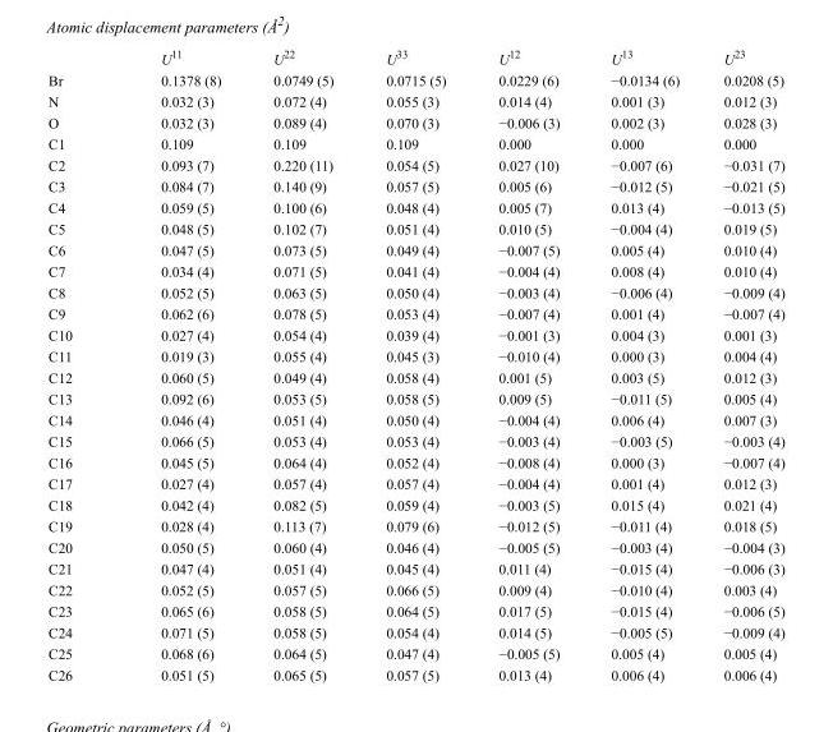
<table><thead><tr><td></td><td>U<sup>11</sup></td><td>U<sup>22</sup></td><td>U<sup>33</sup></td><td>U<sup>12</sup></td><td>U<sup>13</sup></td><td>U<sup>23</sup></td></tr></thead><tbody><tr><td>Br</td><td>0.1378 (8)</td><td>0.0749 (5)</td><td>0.0715 (5)</td><td>0.0229 (6)</td><td>−0.0134 (6)</td><td>0.0208 (5)</td></tr><tr><td>N</td><td>0.032 (3)</td><td>0.072 (4)</td><td>0.055 (3)</td><td>0.014 (4)</td><td>0.001 (3)</td><td>0.012 (3)</td></tr><tr><td>O</td><td>0.032 (3)</td><td>0.089 (4)</td><td>0.070 (3)</td><td>−0.006 (3)</td><td>0.002 (3)</td><td>0.028 (3)</td></tr><tr><td>C1</td><td>0.109</td><td>0.109</td><td>0.109</td><td>0.000</td><td>0.000</td><td>0.000</td></tr><tr><td>C2</td><td>0.093 (7)</td><td>0.220 (11)</td><td>0.054 (5)</td><td>0.027 (10)</td><td>−0.007 (6)</td><td>−0.031 (7)</td></tr><tr><td>C3</td><td>0.084 (7)</td><td>0.140 (9)</td><td>0.057 (5)</td><td>0.005 (6)</td><td>−0.012 (5)</td><td>−0.021 (5)</td></tr><tr><td>C4</td><td>0.059 (5)</td><td>0.100 (6)</td><td>0.048 (4)</td><td>0.005 (7)</td><td>0.013 (4)</td><td>−0.013 (5)</td></tr><tr><td>C5</td><td>0.048 (5)</td><td>0.102 (7)</td><td>0.051 (4)</td><td>0.010 (5)</td><td>−0.004 (4)</td><td>0.019 (5)</td></tr><tr><td>C6</td><td>0.047 (5)</td><td>0.073 (5)</td><td>0.049 (4)</td><td>−0.007 (5)</td><td>0.005 (4)</td><td>0.010 (4)</td></tr><tr><td>C7</td><td>0.034 (4)</td><td>0.071 (5)</td><td>0.041 (4)</td><td>−0.004 (4)</td><td>0.008 (4)</td><td>0.010 (4)</td></tr><tr><td>C8</td><td>0.052 (5)</td><td>0.063 (5)</td><td>0.050 (4)</td><td>−0.003 (4)</td><td>−0.006 (4)</td><td>−0.009 (4)</td></tr><tr><td>C9</td><td>0.062 (6)</td><td>0.078 (5)</td><td>0.053 (4)</td><td>−0.007 (4)</td><td>0.001 (4)</td><td>−0.007 (4)</td></tr><tr><td>C10</td><td>0.027 (4)</td><td>0.054 (4)</td><td>0.039 (4)</td><td>−0.001 (3)</td><td>0.004 (3)</td><td>0.001 (3)</td></tr><tr><td>C11</td><td>0.019 (3)</td><td>0.055 (4)</td><td>0.045 (3)</td><td>−0.010 (4)</td><td>0.000 (3)</td><td>0.004 (4)</td></tr><tr><td>C12</td><td>0.060 (5)</td><td>0.049 (4)</td><td>0.058 (4)</td><td>0.001 (5)</td><td>0.003 (5)</td><td>0.012 (3)</td></tr><tr><td>C13</td><td>0.092 (6)</td><td>0.053 (5)</td><td>0.058 (5)</td><td>0.009 (5)</td><td>−0.011 (5)</td><td>0.005 (4)</td></tr><tr><td>C14</td><td>0.046 (4)</td><td>0.051 (4)</td><td>0.050 (4)</td><td>−0.004 (4)</td><td>0.006 (4)</td><td>0.007 (3)</td></tr><tr><td>C15</td><td>0.066 (5)</td><td>0.053 (4)</td><td>0.053 (4)</td><td>−0.003 (4)</td><td>−0.003 (5)</td><td>−0.003 (4)</td></tr><tr><td>C16</td><td>0.045 (5)</td><td>0.064 (4)</td><td>0.052 (4)</td><td>−0.008 (4)</td><td>0.000 (3)</td><td>−0.007 (4)</td></tr><tr><td>C17</td><td>0.027 (4)</td><td>0.057 (4)</td><td>0.057 (4)</td><td>−0.004 (4)</td><td>0.001 (4)</td><td>0.012 (3)</td></tr><tr><td>C18</td><td>0.042 (4)</td><td>0.082 (5)</td><td>0.059 (4)</td><td>−0.003 (5)</td><td>0.015 (4)</td><td>0.021 (4)</td></tr><tr><td>C19</td><td>0.028 (4)</td><td>0.113 (7)</td><td>0.079 (6)</td><td>−0.012 (5)</td><td>−0.011 (4)</td><td>0.018 (5)</td></tr><tr><td>C20</td><td>0.050 (5)</td><td>0.060 (4)</td><td>0.046 (4)</td><td>−0.005 (5)</td><td>−0.003 (4)</td><td>−0.004 (3)</td></tr><tr><td>C21</td><td>0.047 (4)</td><td>0.051 (4)</td><td>0.045 (4)</td><td>0.011 (4)</td><td>−0.015 (4)</td><td>−0.006 (3)</td></tr><tr><td>C22</td><td>0.052 (5)</td><td>0.057 (5)</td><td>0.066 (5)</td><td>0.009 (4)</td><td>−0.010 (4)</td><td>0.003 (4)</td></tr><tr><td>C23</td><td>0.065 (6)</td><td>0.058 (5)</td><td>0.064 (5)</td><td>0.017 (5)</td><td>−0.015 (4)</td><td>−0.006 (5)</td></tr><tr><td>C24</td><td>0.071 (5)</td><td>0.058 (5)</td><td>0.054 (4)</td><td>0.014 (5)</td><td>−0.005 (5)</td><td>−0.009 (4)</td></tr><tr><td>C25</td><td>0.068 (6)</td><td>0.064 (5)</td><td>0.047 (4)</td><td>−0.005 (5)</td><td>0.005 (4)</td><td>0.005 (4)</td></tr><tr><td>C26</td><td>0.051 (5)</td><td>0.065 (5)</td><td>0.057 (5)</td><td>0.013 (4)</td><td>0.006 (4)</td><td>0.006 (4)</td></tr></tbody></table>